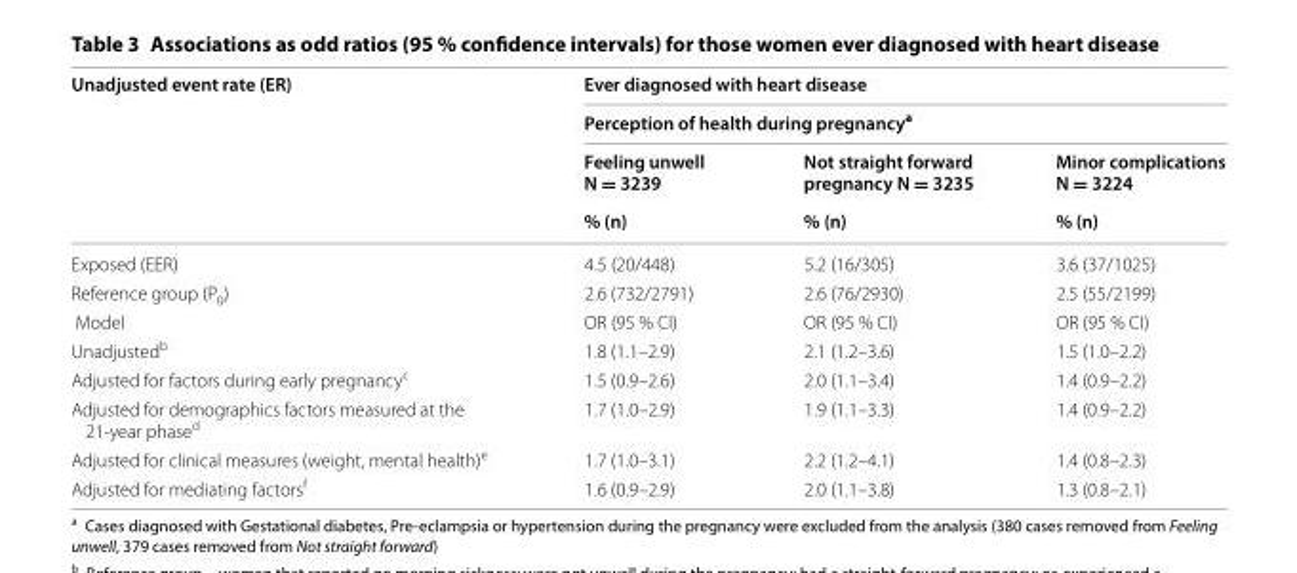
<table><thead><tr><td rowspan="4">Unadjusted event rate (ER)</td><td rowspan="2" colspan="3">Ever diagnosed with heart disease Perception of health during pregnancy<sup>a</sup></td></tr><tr></tr><tr><td rowspan="2">Feeling unwell N = 3239 % (n)</td><td rowspan="2">Not straight forward pregnancy N = 3235 % (n)</td><td rowspan="2">Minor complications N = 3224 % (n)</td></tr><tr></tr></thead><tbody><tr><td>Exposed (EER)</td><td>4.5 (20/448)</td><td>5.2 (16/305)</td><td>3.6 (37/1025)</td></tr><tr><td>Reference group (P<sub>0</sub>)</td><td>2.6 (732/2791)</td><td>2.6 (76/2930)</td><td>2.5 (55/2199)</td></tr><tr><td>Model</td><td>OR (95 % CI)</td><td>OR (95 % CI)</td><td>OR (95 % CI)</td></tr><tr><td>Unadjusted<sup>b</sup></td><td>1.8 (1.1–2.9)</td><td>2.1 (1.2–3.6)</td><td>1.5 (1.0–2.2)</td></tr><tr><td>Adjusted for factors during early pregnancy<sup>c</sup></td><td>1.5 (0.9–2.6)</td><td>2.0 (1.1–3.4)</td><td>1.4 (0.9–2.2)</td></tr><tr><td>Adjusted for demographics factors measured at the 21-year phase<sup>d</sup></td><td>1.7 (1.0–2.9)</td><td>1.9 (1.1–3.3)</td><td>1.4 (0.9–2.2)</td></tr><tr><td>Adjusted for clinical measures (weight, mental health)<sup>e</sup></td><td>1.7 (1.0–3.1)</td><td>2.2 (1.2–4.1)</td><td>1.4 (0.8–2.3)</td></tr><tr><td>Adjusted for mediating factors<sup>f</sup></td><td>1.6 (0.9–2.9)</td><td>2.0 (1.1–3.8)</td><td>1.3 (0.8–2.1)</td></tr></tbody></table>